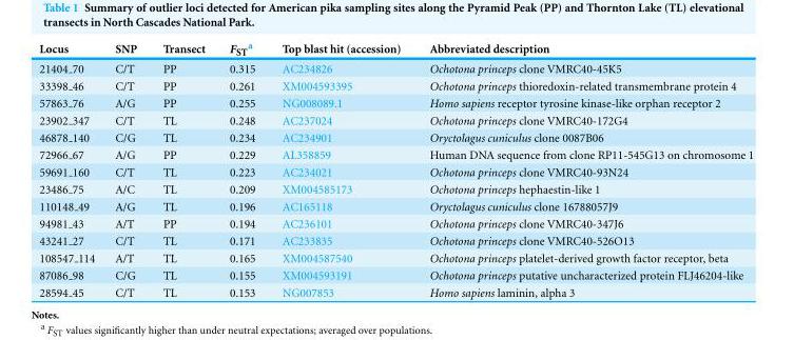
<table><thead><tr><td>Locus</td><td>SNP</td><td>Transect</td><td>F<sub>ST</sub><sup>a</sup></td><td>Top blast hit (accession)</td><td>Abbreviated description</td></tr></thead><tbody><tr><td>21404 70</td><td>C/T</td><td>PP</td><td>0.315</td><td>AC234826</td><td>Ochotona princeps clone VMRC40-45K5</td></tr><tr><td>33398 46</td><td>C/T</td><td>PP</td><td>0.261</td><td>XM004593395</td><td>Ochotona princeps thioredoxin-related transmembrane protein 4</td></tr><tr><td>57863 76</td><td>A/G</td><td>PP</td><td>0.255</td><td>NG008089.1</td><td>Homo sapiens receptor tyrosine kinase-like orphan receptor 2</td></tr><tr><td>23902 347</td><td>C/T</td><td>TL</td><td>0.248</td><td>AC237024</td><td>Ochotona princeps clone VMRC40-172G4</td></tr><tr><td>46878 140</td><td>C/G</td><td>TL</td><td>0.234</td><td>AC234901</td><td>Oryctolagus cuniculus clone 0087B06</td></tr><tr><td>72966 67</td><td>A/G</td><td>PP</td><td>0.229</td><td>AL358859</td><td>Human DNA sequence from clone RP11-545G13 on chromosome 1</td></tr><tr><td>59691 160</td><td>C/T</td><td>TL</td><td>0.223</td><td>AC234021</td><td>Ochotona princeps clone VMRC40-93N24</td></tr><tr><td>23486 75</td><td>A/C</td><td>TL</td><td>0.209</td><td>XM004585173</td><td>Ochotona princeps hephaestin-like 1</td></tr><tr><td>110148 49</td><td>A/G</td><td>TL</td><td>0.196</td><td>AC165118</td><td>Oryctolagus cuniculus clone 16788057J9</td></tr><tr><td>94981 43</td><td>A/T</td><td>PP</td><td>0.194</td><td>AC236101</td><td>Ochotona princeps clone VMRC40-347J6</td></tr><tr><td>43241 27</td><td>C/T</td><td>TL</td><td>0.171</td><td>AC233835</td><td>Ochotona princeps clone VMRC40-526O13</td></tr><tr><td>108547 114</td><td>A/T</td><td>TL</td><td>0.165</td><td>XM004587540</td><td>Ochotona princeps platelet-derived growth factor receptor, beta</td></tr><tr><td>87086 98</td><td>C/G</td><td>TL</td><td>0.155</td><td>XM004593191</td><td>Ochotona princeps putative uncharacterized protein FLJ46204-like</td></tr><tr><td>28594 45</td><td>C/T</td><td>TL</td><td>0.153</td><td>NG007853</td><td>Homo sapiens laminin, alpha 3</td></tr></tbody></table>